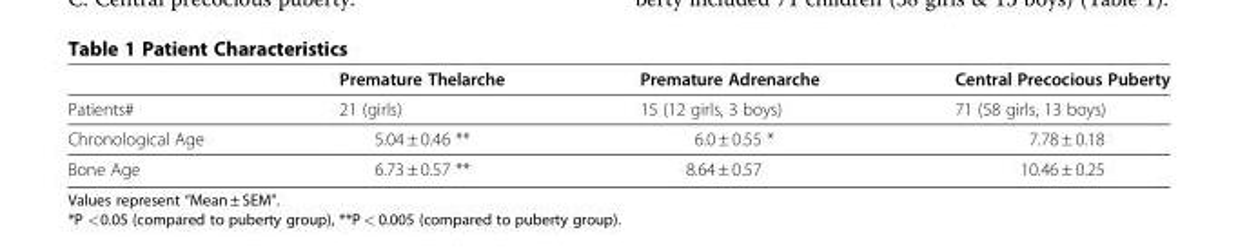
<table><thead><tr><td></td><td>Premature Thelarche</td><td>Premature Adrenarche</td><td>Central Precocious Puberty</td></tr></thead><tbody><tr><td>Patients#</td><td>21 (girls)</td><td>15 (12 girls, 3 boys)</td><td>71 (58 girls, 13 boys)</td></tr><tr><td>Chronological Age</td><td>5.04 ± 0.46 **</td><td>6.0 ± 0.55 *</td><td>7.78 ± 0.18</td></tr><tr><td>Bone Age</td><td>6.73 ± 0.57 **</td><td>8.64 ± 0.57</td><td>10.46 ± 0.25</td></tr></tbody></table>